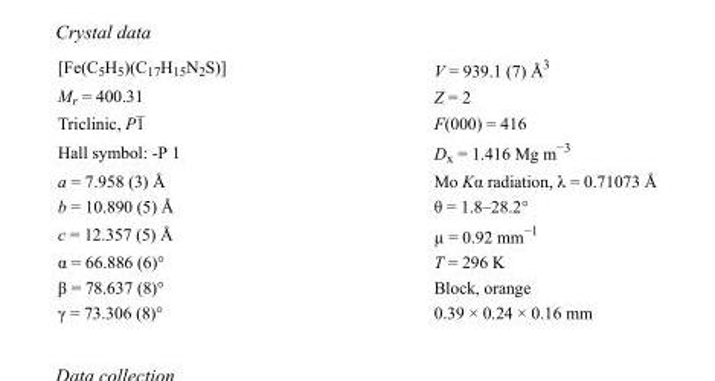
<table><tbody><tr><td>[Fe(C<sub>5</sub>H<sub>5</sub>)(C<sub>17</sub>H<sub>15</sub>N<sub>2</sub>S)]</td><td>V = 939.1 (7) Å<sup>3</sup></td></tr><tr><td>M<sub>r</sub> = 400.31</td><td>Z = 2</td></tr><tr><td>Triclinic, P1</td><td>F(000) = 416</td></tr><tr><td>Hall symbol: -P 1</td><td>D<sub>x</sub> = 1.416 Mg m<sup>−3</sup></td></tr><tr><td>a = 7.958 (3) Å</td><td>Mo Kα radiation, λ = 0.71073 Å</td></tr><tr><td>b = 10.890 (5) Å</td><td>θ = 1.8–28.2°</td></tr><tr><td>c = 12.357 (5) Å</td><td>µ = 0.92 mm<sup>−1</sup></td></tr><tr><td>α = 66.886 (6)°</td><td>T = 296 K</td></tr><tr><td>β = 78.637 (8)°</td><td>Block, orange</td></tr><tr><td>γ = 73.306 (8)°</td><td>0.39 × 0.24 × 0.16 mm</td></tr></tbody></table>